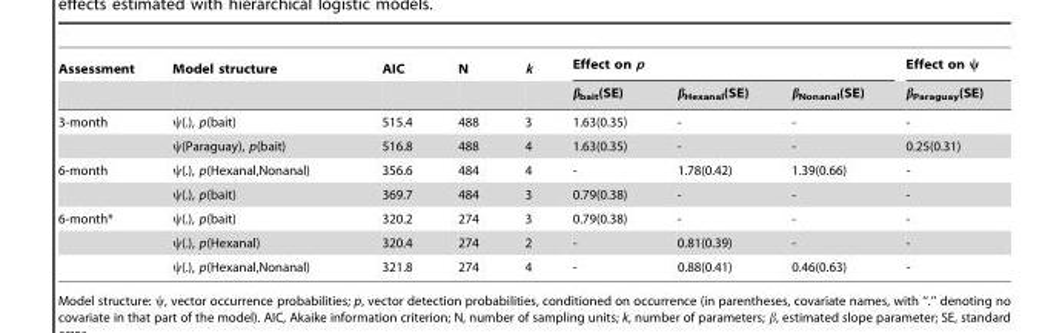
<table><thead><tr><td rowspan="2">Assessment</td><td rowspan="2">Model structure</td><td rowspan="2">AIC</td><td rowspan="2">N</td><td rowspan="2">k</td><td colspan="3">Effect on p</td><td rowspan="2">Effect on ψ β<sub>Paraguay</sub>(SE)</td></tr><tr><td>β<sub>bait</sub>(SE)</td><td>β<sub>Hexanal</sub>(SE)</td><td>β<sub>Nonanal</sub>(SE)</td></tr></thead><tbody><tr><td rowspan="2">3-month</td><td>ψ(.), p(bait)</td><td>515.4</td><td>488</td><td>3</td><td>1.63(0.35)</td><td>-</td><td>-</td><td>-</td></tr><tr><td>ψ(Paraguay), p(bait)</td><td>516.8</td><td>488</td><td>4</td><td>1.63(0.35)</td><td>-</td><td>-</td><td>0.25(0.31)</td></tr><tr><td rowspan="2">6-month</td><td>ψ(.), p(Hexanal,Nonanal)</td><td>356.6</td><td>484</td><td>4</td><td>-</td><td>1.78(0.42)</td><td>1.39(0.66)</td><td>-</td></tr><tr><td>ψ(.), p(bait)</td><td>369.7</td><td>484</td><td>3</td><td>0.79(0.38)</td><td>-</td><td>-</td><td>-</td></tr><tr><td rowspan="3">6-month*</td><td>ψ(.), p(bait)</td><td>320.2</td><td>274</td><td>3</td><td>0.79(0.38)</td><td>-</td><td>-</td><td>-</td></tr><tr><td>ψ(.), p(Hexanal)</td><td>320.4</td><td>274</td><td>2</td><td>-</td><td>0.81(0.39)</td><td>-</td><td>-</td></tr><tr><td>ψ(.), p(Hexanal,Nonanal)</td><td>321.8</td><td>274</td><td>4</td><td>-</td><td>0.88(0.41)</td><td>0.46(0.63)</td><td>-</td></tr></tbody></table>